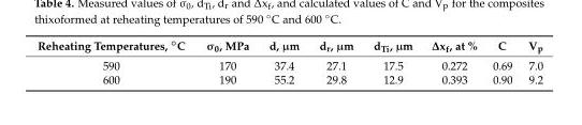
<table><thead><tr><td>Reheating Temperatures, ◦C</td><td>σ<sub>0</sub>, MPa</td><td>d, µm</td><td>d<sub>r</sub>, µm</td><td>d<sub>Ti</sub>, µm</td><td>∆xf, at %</td><td>C</td><td>V<sub>p</sub></td></tr></thead><tbody><tr><td>590</td><td>170</td><td>37.4</td><td>27.1</td><td>17.5</td><td>0.272</td><td>0.69</td><td>7.0</td></tr><tr><td>600</td><td>190</td><td>55.2</td><td>29.8</td><td>12.9</td><td>0.393</td><td>0.90</td><td>9.2</td></tr></tbody></table>